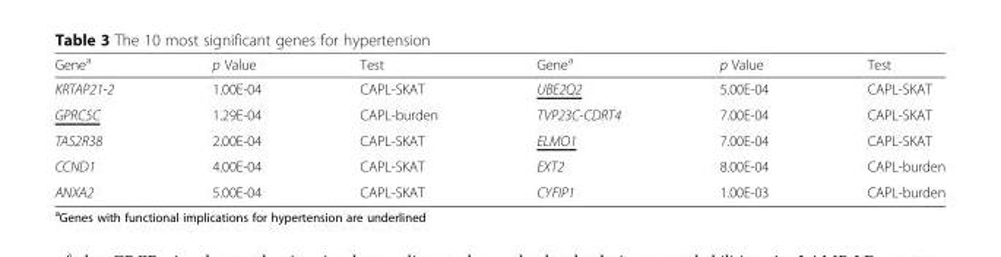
<table><thead><tr><td>Gene<sup>a</sup></td><td>p Value</td><td>Test</td><td>Gene<sup>a</sup></td><td>p Value</td><td>Test</td></tr></thead><tbody><tr><td>KRTAP21-2</td><td>1.00E-04</td><td>CAPL-SKAT</td><td>UBE2Q2</td><td>5.00E-04</td><td>CAPL-SKAT</td></tr><tr><td>GPRC5C</td><td>1.29E-04</td><td>CAPL-burden</td><td>TVP23C-CDRT4</td><td>7.00E-04</td><td>CAPL-SKAT</td></tr><tr><td>TAS2R38</td><td>2.00E-04</td><td>CAPL-SKAT</td><td>ELMO1</td><td>7.00E-04</td><td>CAPL-SKAT</td></tr><tr><td>CCND1</td><td>4.00E-04</td><td>CAPL-SKAT</td><td>EXT2</td><td>8.00E-04</td><td>CAPL-burden</td></tr><tr><td>ANXA2</td><td>5.00E-04</td><td>CAPL-SKAT</td><td>CYFIP1</td><td>1.00E-03</td><td>CAPL-burden</td></tr></tbody></table>